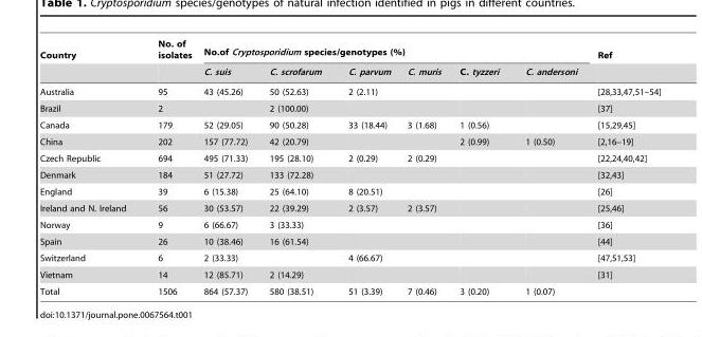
<table><thead><tr><td rowspan="2">Country</td><td rowspan="2">No. of isolates</td><td colspan="6">No.of Cryptosporidium species/genotypes (%)</td><td rowspan="2">Ref</td></tr><tr><td>C. suis</td><td>C. scrofarum</td><td>C. parvum</td><td>C. muris</td><td>C. tyzzeri</td><td>C. andersoni</td></tr></thead><tbody><tr><td>Australia</td><td>95</td><td>43 (45.26)</td><td>50 (52.63)</td><td>2 (2.11)</td><td></td><td></td><td></td><td>[28,33,47,51–54]</td></tr><tr><td>Brazil</td><td>2</td><td></td><td>2 (100.00)</td><td></td><td></td><td></td><td></td><td>[37]</td></tr><tr><td>Canada</td><td>179</td><td>52 (29.05)</td><td>90 (50.28)</td><td>33 (18.44)</td><td>3 (1.68)</td><td>1 (0.56)</td><td></td><td>[15,29,45]</td></tr><tr><td>China</td><td>202</td><td>157 (77.72)</td><td>42 (20.79)</td><td></td><td></td><td>2 (0.99)</td><td>1 (0.50)</td><td>[2,16–19]</td></tr><tr><td>Czech Republic</td><td>694</td><td>495 (71.33)</td><td>195 (28.10)</td><td>2 (0.29)</td><td>2 (0.29)</td><td></td><td></td><td>[22,24,40,42]</td></tr><tr><td>Denmark</td><td>184</td><td>51 (27.72)</td><td>133 (72.28)</td><td></td><td></td><td></td><td></td><td>[32,43]</td></tr><tr><td>England</td><td>39</td><td>6 (15.38)</td><td>25 (64.10)</td><td>8 (20.51)</td><td></td><td></td><td></td><td>[26]</td></tr><tr><td>Ireland and N. Ireland</td><td>56</td><td>30 (53.57)</td><td>22 (39.29)</td><td>2 (3.57)</td><td>2 (3.57)</td><td></td><td></td><td>[25,46]</td></tr><tr><td>Norway</td><td>9</td><td>6 (66.67)</td><td>3 (33.33)</td><td></td><td></td><td></td><td></td><td>[36]</td></tr><tr><td>Spain</td><td>26</td><td>10 (38.46)</td><td>16 (61.54)</td><td></td><td></td><td></td><td></td><td>[44]</td></tr><tr><td>Switzerland</td><td>6</td><td>2 (33.33)</td><td></td><td>4 (66.67)</td><td></td><td></td><td></td><td>[47,51,53]</td></tr><tr><td>Vietnam</td><td>14</td><td>12 (85.71)</td><td>2 (14.29)</td><td></td><td></td><td></td><td></td><td>[31]</td></tr><tr><td>Total</td><td>1506</td><td>864 (57.37)</td><td>580 (38.51)</td><td>51 (3.39)</td><td>7 (0.46)</td><td>3 (0.20)</td><td>1 (0.07)</td><td></td></tr></tbody></table>